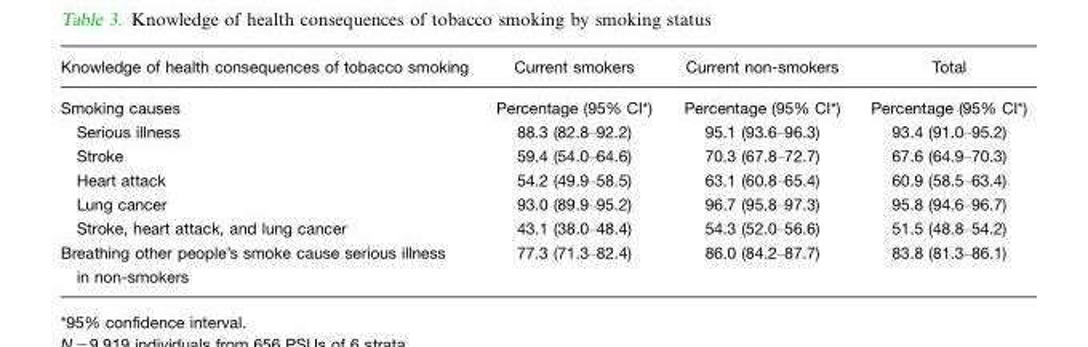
<table><thead><tr><td>Knowledge of health consequences of tobacco smoking</td><td>Current smokers</td><td>Current non-smokers</td><td>Total</td></tr></thead><tbody><tr><td>Smoking causes</td><td>Percentage (95% CI*)</td><td>Percentage (95% CI*)</td><td>Percentage (95% CI*)</td></tr><tr><td>Serious illness</td><td>88.3 (82.8–92.2)</td><td>95.1 (93.6–96.3)</td><td>93.4 (91.0–95.2)</td></tr><tr><td>Stroke</td><td>59.4 (54.0–64.6)</td><td>70.3 (67.8–72.7)</td><td>67.6 (64.9–70.3)</td></tr><tr><td>Heart attack</td><td>54.2 (49.9–58.5)</td><td>63.1 (60.8–65.4)</td><td>60.9 (58.5–63.4)</td></tr><tr><td>Lung cancer</td><td>93.0 (89.9–95.2)</td><td>96.7 (95.8–97.3)</td><td>95.8 (94.6–96.7)</td></tr><tr><td>Stroke, heart attack, and lung cancer</td><td>43.1 (38.0–48.4)</td><td>54.3 (52.0–56.6)</td><td>51.5 (48.8–54.2)</td></tr><tr><td>Breathing other people’s smoke cause serious illness in non-smokers</td><td>77.3 (71.3–82.4)</td><td>86.0 (84.2–87.7)</td><td>83.8 (81.3–86.1)</td></tr></tbody></table>